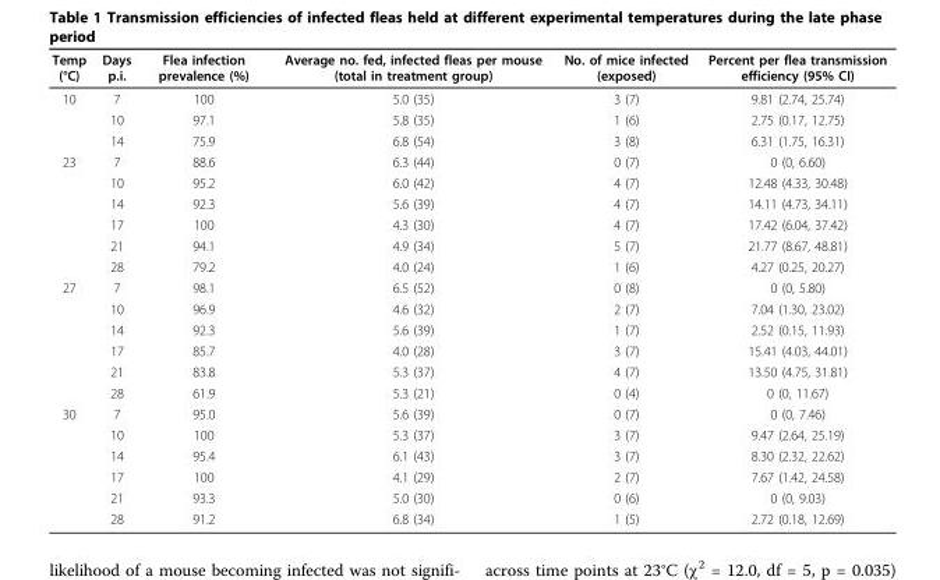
<table><thead><tr><td>Temp (°C)</td><td>Days p.i.</td><td>Flea infection prevalence (%)</td><td>Average no. fed, infected fleas per mouse (total in treatment group)</td><td>No. of mice infected (exposed)</td><td>Percent per flea transmission efficiency (95% CI)</td></tr></thead><tbody><tr><td rowspan="3">10</td><td>7</td><td>100</td><td>5.0 (35)</td><td>3 (7)</td><td>9.81 (2.74, 25.74)</td></tr><tr><td>10</td><td>97.1</td><td>5.8 (35)</td><td>1 (6)</td><td>2.75 (0.17, 12.75)</td></tr><tr><td>14</td><td>75.9</td><td>6.8 (54)</td><td>3 (8)</td><td>6.31 (1.75, 16.31)</td></tr><tr><td rowspan="6">23</td><td>7</td><td>88.6</td><td>6.3 (44)</td><td>0 (7)</td><td>0 (0, 6.60)</td></tr><tr><td>10</td><td>95.2</td><td>6.0 (42)</td><td>4 (7)</td><td>12.48 (4.33, 30.48)</td></tr><tr><td>14</td><td>92.3</td><td>5.6 (39)</td><td>4 (7)</td><td>14.11 (4.73, 34.11)</td></tr><tr><td>17</td><td>100</td><td>4.3 (30)</td><td>4 (7)</td><td>17.42 (6.04, 37.42)</td></tr><tr><td>21</td><td>94.1</td><td>4.9 (34)</td><td>5 (7)</td><td>21.77 (8.67, 48.81)</td></tr><tr><td>28</td><td>79.2</td><td>4.0 (24)</td><td>1 (6)</td><td>4.27 (0.25, 20.27)</td></tr><tr><td rowspan="6">27</td><td>7</td><td>98.1</td><td>6.5 (52)</td><td>0 (8)</td><td>0 (0, 5.80)</td></tr><tr><td>10</td><td>96.9</td><td>4.6 (32)</td><td>2 (7)</td><td>7.04 (1.30, 23.02)</td></tr><tr><td>14</td><td>92.3</td><td>5.6 (39)</td><td>1 (7)</td><td>2.52 (0.15, 11.93)</td></tr><tr><td>17</td><td>85.7</td><td>4.0 (28)</td><td>3 (7)</td><td>15.41 (4.03, 44.01)</td></tr><tr><td>21</td><td>83.8</td><td>5.3 (37)</td><td>4 (7)</td><td>13.50 (4.75, 31.81)</td></tr><tr><td>28</td><td>61.9</td><td>5.3 (21)</td><td>0 (4)</td><td>0 (0, 11.67)</td></tr><tr><td rowspan="6">30</td><td>7</td><td>95.0</td><td>5.6 (39)</td><td>0 (7)</td><td>0 (0, 7.46)</td></tr><tr><td>10</td><td>100</td><td>5.3 (37)</td><td>3 (7)</td><td>9.47 (2.64, 25.19)</td></tr><tr><td>14</td><td>95.4</td><td>6.1 (43)</td><td>3 (7)</td><td>8.30 (2.32, 22.62)</td></tr><tr><td>17</td><td>100</td><td>4.1 (29)</td><td>2 (7)</td><td>7.67 (1.42, 24.58)</td></tr><tr><td>21</td><td>93.3</td><td>5.0 (30)</td><td>0 (6)</td><td>0 (0, 9.03)</td></tr><tr><td>28</td><td>91.2</td><td>6.8 (34)</td><td>1 (5)</td><td>2.72 (0.18, 12.69)</td></tr></tbody></table>